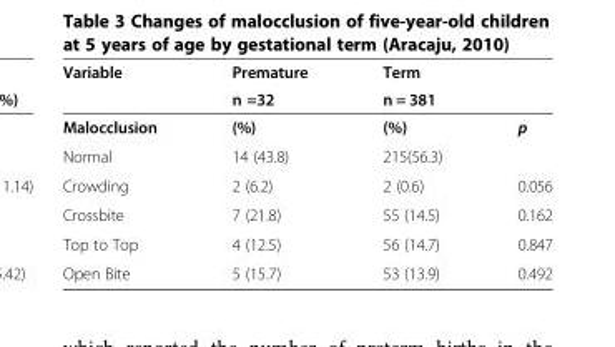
<table><thead><tr><td rowspan="2">Variable</td><td rowspan="2">Premature n =32</td><td rowspan="2">Term n = 381</td><td rowspan="2"></td></tr><tr></tr></thead><tbody><tr><td>Malocclusion</td><td>(%)</td><td>(%)</td><td>p</td></tr><tr><td>Normal</td><td>14 (43.8)</td><td>215(56.3)</td><td></td></tr><tr><td>Crowding</td><td>2 (6.2)</td><td>2 (0.6)</td><td>0.056</td></tr><tr><td>Crossbite</td><td>7 (21.8)</td><td>55 (14.5)</td><td>0.162</td></tr><tr><td>Top to Top</td><td>4 (12.5)</td><td>56 (14.7)</td><td>0.847</td></tr><tr><td>Open Bite</td><td>5 (15.7)</td><td>53 (13.9)</td><td>0.492</td></tr></tbody></table>